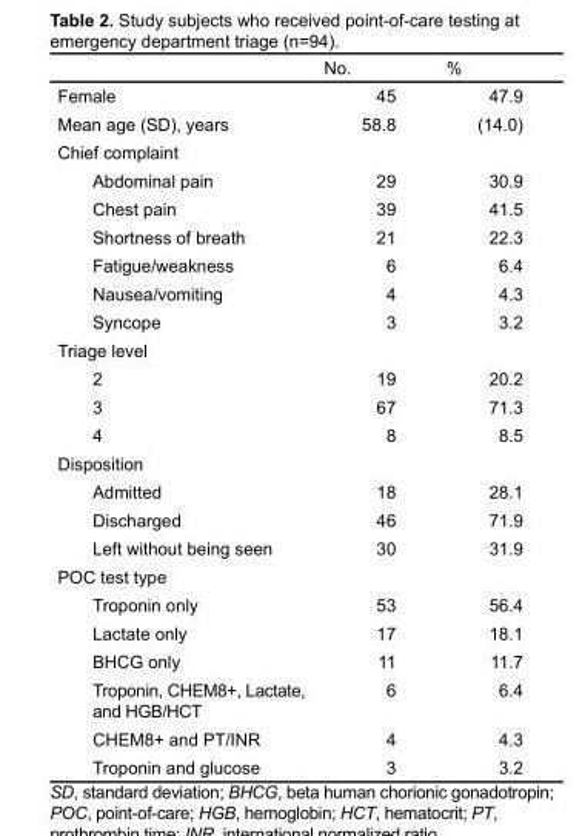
<table><thead><tr><td></td><td>No.</td><td>%</td></tr></thead><tbody><tr><td>Female</td><td>45</td><td>47.9</td></tr><tr><td>Mean age (SD), years</td><td>58.8</td><td>(14.0)</td></tr><tr><td colspan="3">Chief complaint</td></tr><tr><td>Abdominal pain</td><td>29</td><td>30.9</td></tr><tr><td>Chest pain</td><td>39</td><td>41.5</td></tr><tr><td>Shortness of breath</td><td>21</td><td>22.3</td></tr><tr><td>Fatigue/weakness</td><td>6</td><td>6.4</td></tr><tr><td>Nausea/vomiting</td><td>4</td><td>4.3</td></tr><tr><td>Syncope</td><td>3</td><td>3.2</td></tr><tr><td colspan="3">Triage level</td></tr><tr><td>2</td><td>19</td><td>20.2</td></tr><tr><td>3</td><td>67</td><td>71.3</td></tr><tr><td>4</td><td>8</td><td>8.5</td></tr><tr><td colspan="3">Disposition</td></tr><tr><td>Admitted</td><td>18</td><td>28.1</td></tr><tr><td>Discharged</td><td>46</td><td>71.9</td></tr><tr><td>Left without being seen</td><td>30</td><td>31.9</td></tr><tr><td colspan="3">POC test type</td></tr><tr><td>Troponin only</td><td>53</td><td>56.4</td></tr><tr><td>Lactate only</td><td>17</td><td>18.1</td></tr><tr><td>BHCG only</td><td>11</td><td>11.7</td></tr><tr><td>Troponin, CHEM8+, Lactate, and HGB/HCT</td><td>6</td><td>6.4</td></tr><tr><td>CHEM8+ and PT/INR</td><td>4</td><td>4.3</td></tr><tr><td>Troponin and glucose</td><td>3</td><td>3.2</td></tr></tbody></table>